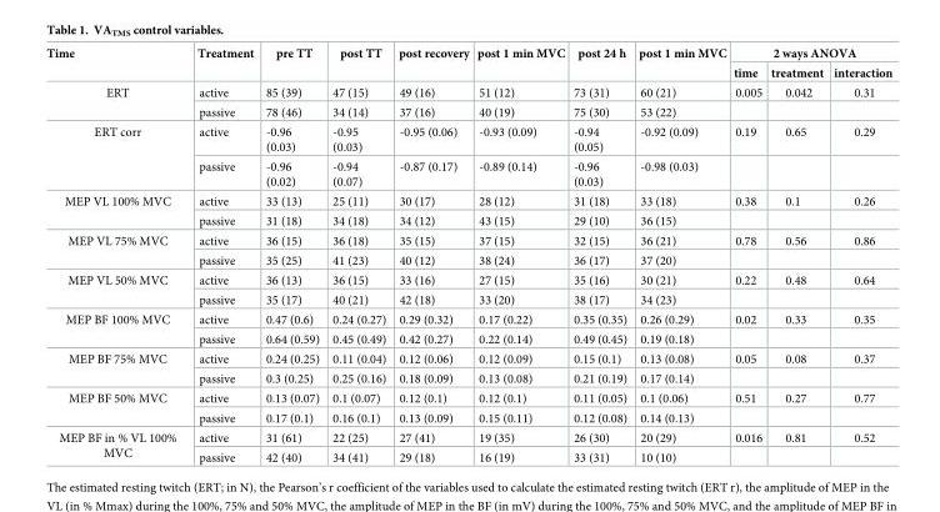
<table><thead><tr><td rowspan="2">Time</td><td rowspan="2">Treatment</td><td rowspan="2">pre TT</td><td rowspan="2">post TT</td><td rowspan="2">post recovery</td><td rowspan="2">post 1 min MVC</td><td rowspan="2">post 24 h</td><td rowspan="2">post 1 min MVC</td><td colspan="3">2 ways ANOVA</td></tr><tr><td>time</td><td>treatment</td><td>interaction</td></tr></thead><tbody><tr><td rowspan="2">ERT</td><td>active</td><td>85 (39)</td><td>47 (15)</td><td>49 (16)</td><td>51 (12)</td><td>73 (31)</td><td>60 (21)</td><td>0.005</td><td>0.042</td><td>0.31</td></tr><tr><td>passive</td><td>78 (46)</td><td>34 (14)</td><td>37 (16)</td><td>40 (19)</td><td>75 (30)</td><td>53 (22)</td><td></td><td></td><td></td></tr><tr><td rowspan="2">ERT corr</td><td>active</td><td>-0.96 (0.03)</td><td>-0.95 (0.03)</td><td>-0.95 (0.06)</td><td>-0.93 (0.09)</td><td>-0.94 (0.05)</td><td>-0.92 (0.09)</td><td>0.19</td><td>0.65</td><td>0.29</td></tr><tr><td>passive</td><td>-0.96 (0.02)</td><td>-0.94 (0.07)</td><td>-0.87 (0.17)</td><td>-0.89 (0.14)</td><td>-0.96 (0.03)</td><td>-0.98 (0.03)</td><td></td><td></td><td></td></tr><tr><td rowspan="2">MEP VL 100% MVC</td><td>active</td><td>33 (13)</td><td>25 (11)</td><td>30 (17)</td><td>28 (12)</td><td>31 (18)</td><td>33 (18)</td><td>0.38</td><td>0.1</td><td>0.26</td></tr><tr><td>passive</td><td>31 (18)</td><td>34 (18)</td><td>34 (12)</td><td>43 (15)</td><td>29 (10)</td><td>36 (15)</td><td></td><td></td><td></td></tr><tr><td rowspan="2">MEP VL 75% MVC</td><td>active</td><td>36 (15)</td><td>36 (18)</td><td>35 (15)</td><td>37 (15)</td><td>32 (15)</td><td>36 (21)</td><td>0.78</td><td>0.56</td><td>0.86</td></tr><tr><td>passive</td><td>35 (25)</td><td>41 (23)</td><td>40 (12)</td><td>38 (24)</td><td>36 (17)</td><td>37 (20)</td><td></td><td></td><td></td></tr><tr><td rowspan="2">MEP VL 50% MVC</td><td>active</td><td>36 (13)</td><td>36 (15)</td><td>33 (16)</td><td>27 (15)</td><td>35 (16)</td><td>30 (21)</td><td>0.22</td><td>0.48</td><td>0.64</td></tr><tr><td>passive</td><td>35 (17)</td><td>40 (21)</td><td>42 (18)</td><td>33 (20)</td><td>38 (17)</td><td>34 (23)</td><td></td><td></td><td></td></tr><tr><td rowspan="2">MEP BF 100% MVC</td><td>active</td><td>0.47 (0.6)</td><td>0.24 (0.27)</td><td>0.29 (0.32)</td><td>0.17 (0.22)</td><td>0.35 (0.35)</td><td>0.26 (0.29)</td><td>0.02</td><td>0.33</td><td>0.35</td></tr><tr><td>passive</td><td>0.64 (0.59)</td><td>0.45 (0.49)</td><td>0.42 (0.27)</td><td>0.22 (0.14)</td><td>0.49 (0.45)</td><td>0.19 (0.18)</td><td></td><td></td><td></td></tr><tr><td rowspan="2">MEP BF 75% MVC</td><td>active</td><td>0.24 (0.25)</td><td>0.11 (0.04)</td><td>0.12 (0.06)</td><td>0.12 (0.09)</td><td>0.15 (0.1)</td><td>0.13 (0.08)</td><td>0.05</td><td>0.08</td><td>0.37</td></tr><tr><td>passive</td><td>0.3 (0.25)</td><td>0.25 (0.16)</td><td>0.18 (0.09)</td><td>0.13 (0.08)</td><td>0.21 (0.19)</td><td>0.17 (0.14)</td><td></td><td></td><td></td></tr><tr><td rowspan="2">MEP BF 50% MVC</td><td>active</td><td>0.13 (0.07)</td><td>0.1 (0.07)</td><td>0.12 (0.1)</td><td>0.12 (0.1)</td><td>0.11 (0.05)</td><td>0.1 (0.06)</td><td>0.51</td><td>0.27</td><td>0.77</td></tr><tr><td>passive</td><td>0.17 (0.1)</td><td>0.16 (0.1)</td><td>0.13 (0.09)</td><td>0.15 (0.11)</td><td>0.12 (0.08)</td><td>0.14 (0.13)</td><td></td><td></td><td></td></tr><tr><td rowspan="2">MEP BF in % VL 100% MVC</td><td>active</td><td>31 (61)</td><td>22 (25)</td><td>27 (41)</td><td>19 (35)</td><td>26 (30)</td><td>20 (29)</td><td>0.016</td><td>0.81</td><td>0.52</td></tr><tr><td>passive</td><td>42 (40)</td><td>34 (41)</td><td>29 (18)</td><td>16 (19)</td><td>33 (31)</td><td>10 (10)</td><td></td><td></td><td></td></tr></tbody></table>